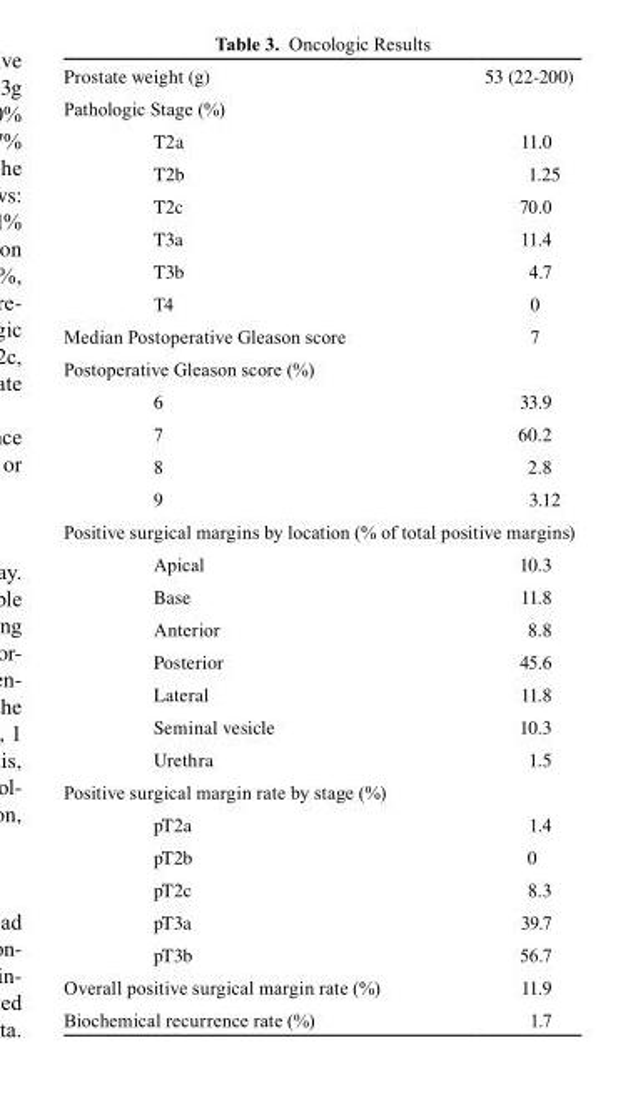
<table><tbody><tr><td>Prostate weight (g)</td><td>53 (22-200)</td></tr><tr><td colspan="2">Pathologic Stage (%)</td></tr><tr><td>T2a</td><td>11.0</td></tr><tr><td>T2b</td><td>1.25</td></tr><tr><td>T2c</td><td>70.0</td></tr><tr><td>T3a</td><td>11.4</td></tr><tr><td>T3b</td><td>4.7</td></tr><tr><td>T4</td><td>0</td></tr><tr><td>Median Postoperative Gleason score</td><td>7</td></tr><tr><td colspan="2">Postoperative Gleason score (%)</td></tr><tr><td>6</td><td>33.9</td></tr><tr><td>7</td><td>60.2</td></tr><tr><td>8</td><td>2.8</td></tr><tr><td>9</td><td>3.12</td></tr><tr><td colspan="2">Positive surgical margins by location (% of total positive margins)</td></tr><tr><td>Apical</td><td>10.3</td></tr><tr><td>Base</td><td>11.8</td></tr><tr><td>Anterior</td><td>8.8</td></tr><tr><td>Posterior</td><td>45.6</td></tr><tr><td>Lateral</td><td>11.8</td></tr><tr><td>Seminal vesicle</td><td>10.3</td></tr><tr><td>Urethra</td><td>1.5</td></tr><tr><td colspan="2">Positive surgical margin rate by stage (%)</td></tr><tr><td>pT2a</td><td>1.4</td></tr><tr><td>pT2b</td><td>0</td></tr><tr><td>pT2c</td><td>8.3</td></tr><tr><td>pT3a</td><td>39.7</td></tr><tr><td>pT3b</td><td>56.7</td></tr><tr><td>Overall positive surgical margin rate (%)</td><td>11.9</td></tr><tr><td>Biochemical recurrence rate (%)</td><td>1.7</td></tr></tbody></table>